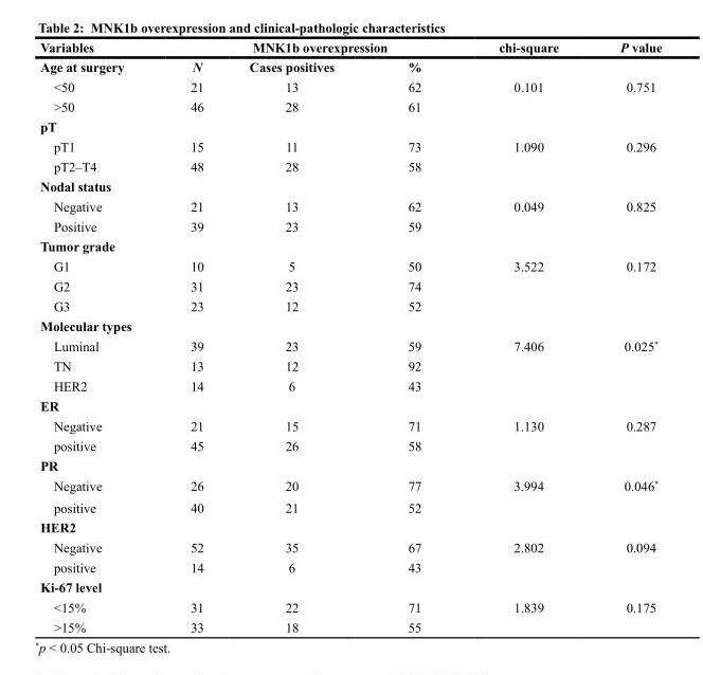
<table><thead><tr><td rowspan="2">Variables Age at surgery</td><td colspan="3">MNK1b overexpression</td><td rowspan="2">chi-square</td><td rowspan="2">P value</td></tr><tr><td>N</td><td>Cases positives</td><td>%</td></tr></thead><tbody><tr><td>&lt;50</td><td>21</td><td>13</td><td>62</td><td>0.101</td><td>0.751</td></tr><tr><td>&gt;50</td><td>46</td><td>28</td><td>61</td><td></td><td></td></tr><tr><td colspan="6">pT</td></tr><tr><td>pT1</td><td>15</td><td>11</td><td>73</td><td>1.090</td><td>0.296</td></tr><tr><td>pT2–T4</td><td>48</td><td>28</td><td>58</td><td></td><td></td></tr><tr><td colspan="6">Nodal status</td></tr><tr><td>Negative</td><td>21</td><td>13</td><td>62</td><td>0.049</td><td>0.825</td></tr><tr><td>Positive</td><td>39</td><td>23</td><td>59</td><td></td><td></td></tr><tr><td colspan="6">Tumor grade</td></tr><tr><td>G1</td><td>10</td><td>5</td><td>50</td><td>3.522</td><td>0.172</td></tr><tr><td>G2</td><td>31</td><td>23</td><td>74</td><td></td><td></td></tr><tr><td>G3</td><td>23</td><td>12</td><td>52</td><td></td><td></td></tr><tr><td colspan="6">Molecular types</td></tr><tr><td>Luminal</td><td>39</td><td>23</td><td>59</td><td>7.406</td><td>0.025*</td></tr><tr><td>TN</td><td>13</td><td>12</td><td>92</td><td></td><td></td></tr><tr><td>HER2</td><td>14</td><td>6</td><td>43</td><td></td><td></td></tr><tr><td colspan="6">ER</td></tr><tr><td>Negative</td><td>21</td><td>15</td><td>71</td><td>1.130</td><td>0.287</td></tr><tr><td>positive</td><td>45</td><td>26</td><td>58</td><td></td><td></td></tr><tr><td colspan="6">PR</td></tr><tr><td>Negative</td><td>26</td><td>20</td><td>77</td><td>3.994</td><td>0.046*</td></tr><tr><td>positive</td><td>40</td><td>21</td><td>52</td><td></td><td></td></tr><tr><td colspan="6">HER2</td></tr><tr><td>Negative</td><td>52</td><td>35</td><td>67</td><td>2.802</td><td>0.094</td></tr><tr><td>positive</td><td>14</td><td>6</td><td>43</td><td></td><td></td></tr><tr><td colspan="6">Ki-67 level</td></tr><tr><td>&lt;15%</td><td>31</td><td>22</td><td>71</td><td>1.839</td><td>0.175</td></tr><tr><td>&gt;15%</td><td>33</td><td>18</td><td>55</td><td></td><td></td></tr></tbody></table>